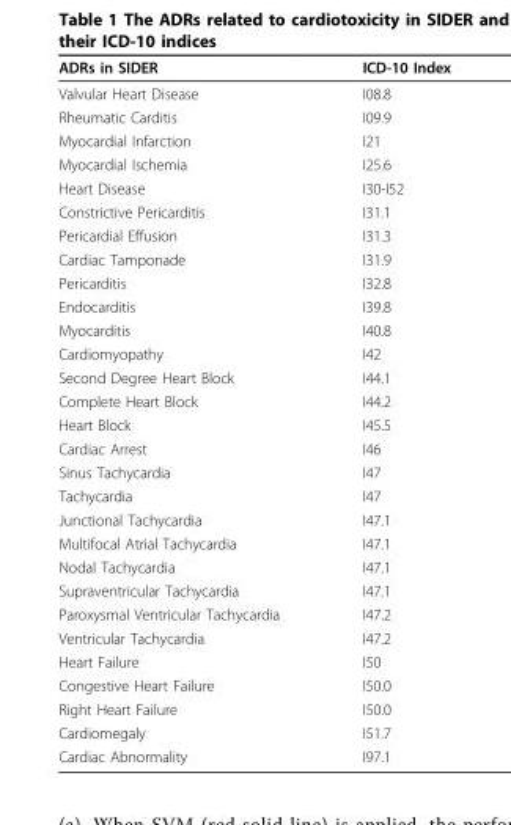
<table><thead><tr><td>ADRs in SIDER</td><td>ICD-10 Index</td></tr></thead><tbody><tr><td>Valvular Heart Disease</td><td>I08.8</td></tr><tr><td>Rheumatic Carditis</td><td>I09.9</td></tr><tr><td>Myocardial Infarction</td><td>I21</td></tr><tr><td>Myocardial Ischemia</td><td>I25.6</td></tr><tr><td>Heart Disease</td><td>I30-I52</td></tr><tr><td>Constrictive Pericarditis</td><td>I31.1</td></tr><tr><td>Pericardial Effusion</td><td>I31.3</td></tr><tr><td>Cardiac Tamponade</td><td>I31.9</td></tr><tr><td>Pericarditis</td><td>I32.8</td></tr><tr><td>Endocarditis</td><td>I39.8</td></tr><tr><td>Myocarditis</td><td>I40.8</td></tr><tr><td>Cardiomyopathy</td><td>I42</td></tr><tr><td>Second Degree Heart Block</td><td>I44.1</td></tr><tr><td>Complete Heart Block</td><td>I44.2</td></tr><tr><td>Heart Block</td><td>I45.5</td></tr><tr><td>Cardiac Arrest</td><td>I46</td></tr><tr><td>Sinus Tachycardia</td><td>I47</td></tr><tr><td>Tachycardia</td><td>I47</td></tr><tr><td>Junctional Tachycardia</td><td>I47.1</td></tr><tr><td>Multifocal Atrial Tachycardia</td><td>I47.1</td></tr><tr><td>Nodal Tachycardia</td><td>I47.1</td></tr><tr><td>Supraventricular Tachycardia</td><td>I47.1</td></tr><tr><td>Paroxysmal Ventricular Tachycardia</td><td>I47.2</td></tr><tr><td>Ventricular Tachycardia</td><td>I47.2</td></tr><tr><td>Heart Failure</td><td>I50</td></tr><tr><td>Congestive Heart Failure</td><td>I50.0</td></tr><tr><td>Right Heart Failure</td><td>I50.0</td></tr><tr><td>Cardiomegaly</td><td>I51.7</td></tr><tr><td>Cardiac Abnormality</td><td>I97.1</td></tr></tbody></table>